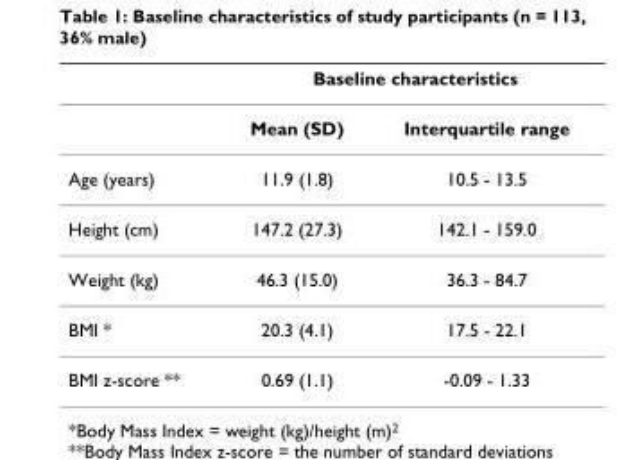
<table><thead><tr><td rowspan="2"></td><td colspan="2">Baseline characteristics</td></tr><tr><td>Mean (SD)</td><td>Interquartile range</td></tr></thead><tbody><tr><td>Age (years)</td><td>11.9 (1.8)</td><td>10.5 - 13.5</td></tr><tr><td>Height (cm)</td><td>147.2 (27.3)</td><td>142.1 - 159.0</td></tr><tr><td>Weight (kg)</td><td>46.3 (15.0)</td><td>36.3 - 84.7</td></tr><tr><td>BMI *</td><td>20.3 (4.1)</td><td>17.5 - 22.1</td></tr><tr><td>BMI z-score **</td><td>0.69 (1.1)</td><td>-0.09 - 1.33</td></tr></tbody></table>